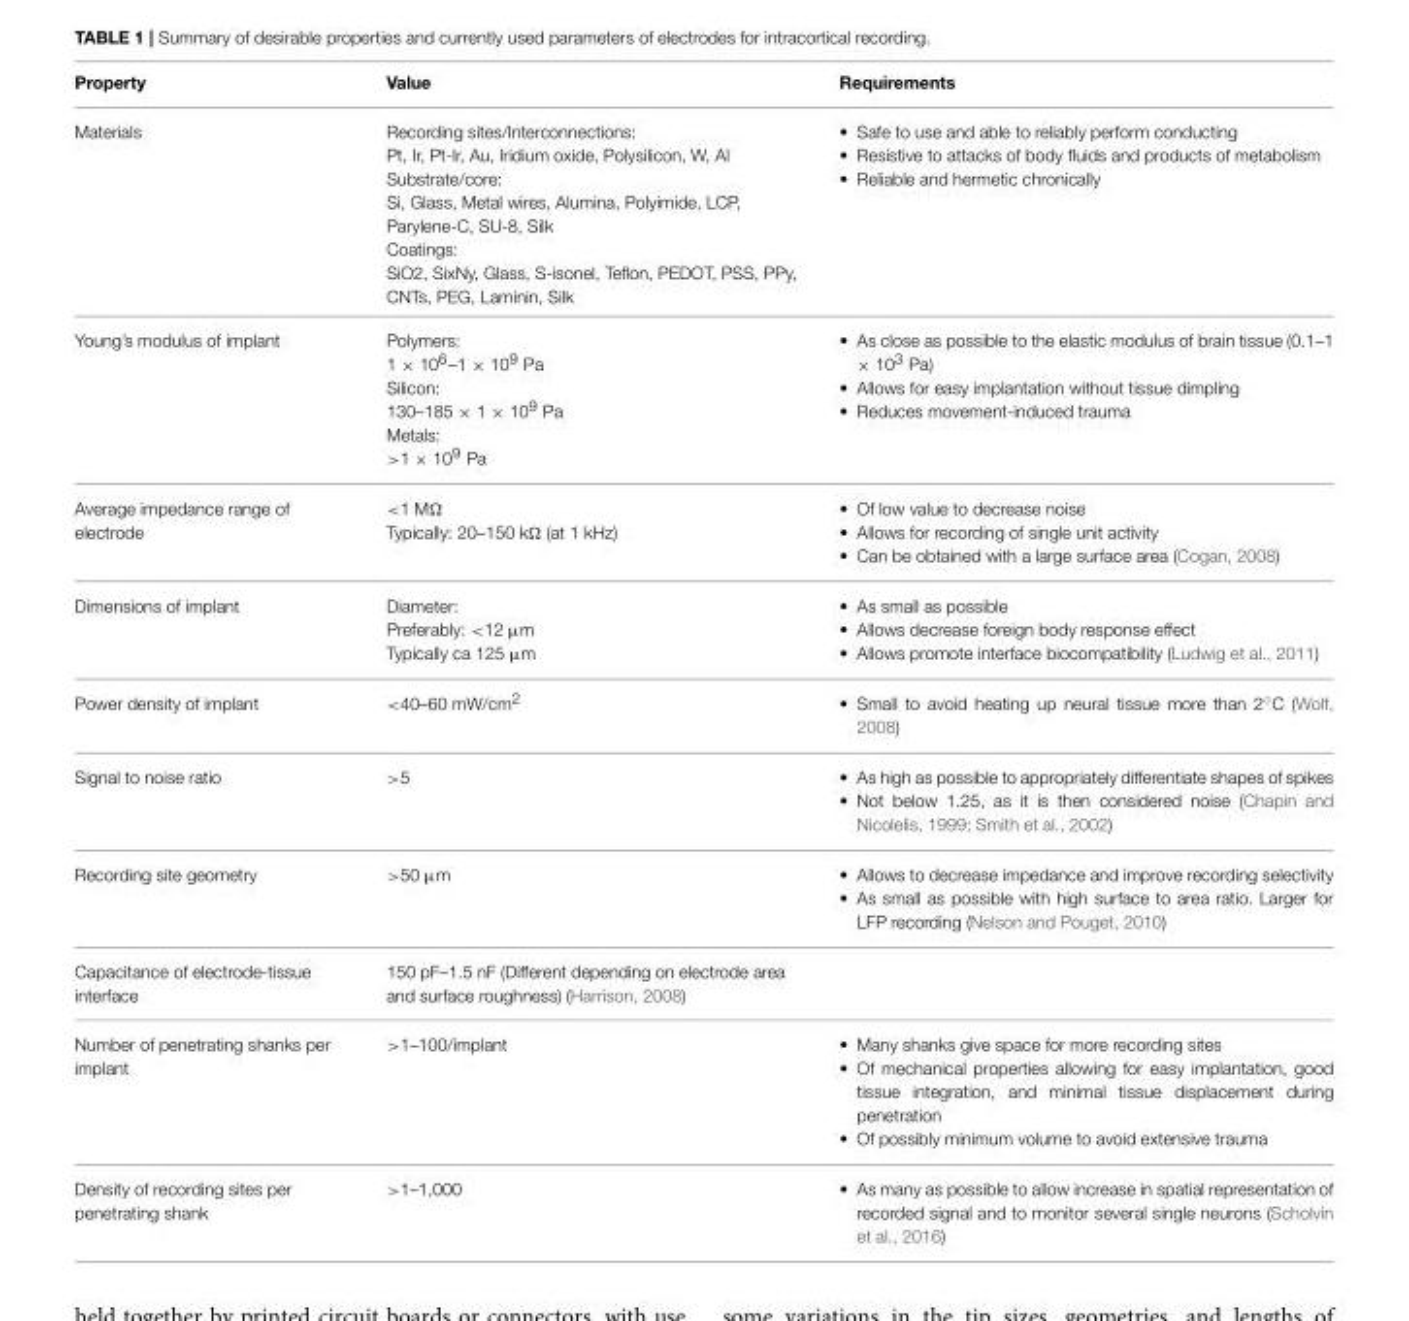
<table><thead><tr><td>Property</td><td>Value</td><td>Requirements</td></tr></thead><tbody><tr><td>Materials</td><td>Recording sites/Interconnections: Pt, Ir, Pt-Ir, Au, Iridium oxide, Polysilicon, W, Al Substrate/core: Si, Glass, Metal wires, Alumina, Polyimide, LCP, Parylene-C, SU-8, Silk Coatings: SiO2, SixNy, Glass, S-isonel, Teflon, PEDOT, PSS, PPy, CNTs, PEG, Laminin, Silk</td><td>• Safe to use and able to reliably perform conducting • Resistive to attacks of body fluids and products of metabolism • Reliable and hermetic chronically</td></tr><tr><td>Young’s modulus of implant</td><td>Polymers: 1 × 10<sup>6</sup>–1 × 10<sup>9</sup> Pa Silicon: 130–185 × 1 × 10<sup>9</sup> Pa Metals: &gt;1 × 10<sup>9</sup> Pa</td><td>• As close as possible to the elastic modulus of brain tissue (0.1–1 × 103 Pa) • Allows for easy implantation without tissue dimpling • Reduces movement-induced trauma</td></tr><tr><td>Average impedance range of electrode</td><td>&lt;1 MΩ Typically: 20–150 kΩ (at 1 kHz)</td><td>• Of low value to decrease noise • Allows for recording of single unit activity • Can be obtained with a large surface area (Cogan, 2008)</td></tr><tr><td>Dimensions of implant</td><td>Diameter: Preferably: &lt;12 µm Typically ca 125 µm</td><td>• As small as possible • Allows decrease foreign body response effect • Allows promote interface biocompatibility (Ludwig et al., 2011)</td></tr><tr><td>Power density of implant</td><td>&lt;40–60 mW/cm<sup>2</sup></td><td>• Small to avoid heating up neural tissue more than 2◦C (Wolf, 2008)</td></tr><tr><td>Signal to noise ratio</td><td>&gt;5</td><td>• As high as possible to appropriately differentiate shapes of spikes • Not below 1.25, as it is then considered noise (Chapin and Nicolelis, 1999; Smith et al., 2002)</td></tr><tr><td>Recording site geometry</td><td>&gt;50 µm</td><td>• Allows to decrease impedance and improve recording selectivity • As small as possible with high surface to area ratio. Larger for LFP recording (Nelson and Pouget, 2010)</td></tr><tr><td>Capacitance of electrode-tissue interface</td><td>150 pF–1.5 nF (Different depending on electrode area and surface roughness) (Harrison, 2008)</td><td></td></tr><tr><td>Number of penetrating shanks per implant</td><td>&gt;1–100/implant</td><td>• Many shanks give space for more recording sites • Of mechanical properties allowing for easy implantation, good tissue integration, and minimal tissue displacement during penetration • Of possibly minimum volume to avoid extensive trauma</td></tr><tr><td>Density of recording sites per penetrating shank</td><td>&gt;1–1,000</td><td>• As many as possible to allow increase in spatial representation of recorded signal and to monitor several single neurons (Scholvin et al., 2016)</td></tr></tbody></table>